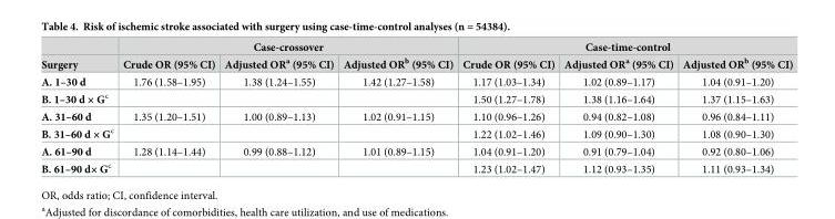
<table><thead><tr><td rowspan="2">Surgery</td><td colspan="3">Case-crossover</td><td colspan="3">Case-time-control</td></tr><tr><td>Crude OR (95% CI)</td><td>Adjusted OR<sup>a</sup> (95% CI)</td><td>Adjusted OR<sup>b</sup> (95% CI)</td><td>Crude OR (95% CI)</td><td>Adjusted OR<sup>a</sup> (95% CI)</td><td>Adjusted OR<sup>b</sup> (95% CI)</td></tr></thead><tbody><tr><td>A. 1–30 d</td><td>1.76 (1.58–1.95)</td><td>1.38 (1.24–1.55)</td><td>1.42 (1.27–1.58)</td><td>1.17 (1.03–1.34)</td><td>1.02 (0.89–1.17)</td><td>1.04 (0.91–1.20)</td></tr><tr><td>B. 1–30 d × G<sup>c</sup></td><td></td><td></td><td></td><td>1.50 (1.27–1.78)</td><td>1.38 (1.16–1.64)</td><td>1.37 (1.15–1.63)</td></tr><tr><td>A. 31–60 d</td><td>1.35 (1.20–1.51)</td><td>1.00 (0.89–1.13)</td><td>1.02 (0.91–1.15)</td><td>1.10 (0.96–1.26)</td><td>0.94 (0.82–1.08)</td><td>0.96 (0.84–1.11)</td></tr><tr><td>B. 31–60 d × G<sup>c</sup></td><td></td><td></td><td></td><td>1.22 (1.02–1.46)</td><td>1.09 (0.90–1.30)</td><td>1.08 (0.90–1.30)</td></tr><tr><td>A. 61–90 d</td><td>1.28 (1.14–1.44)</td><td>0.99 (0.88–1.12)</td><td>1.01 (0.89–1.15)</td><td>1.04 (0.91–1.20)</td><td>0.91 (0.79–1.04)</td><td>0.92 (0.80–1.06)</td></tr><tr><td>B. 61–90 d× G<sup>c</sup></td><td></td><td></td><td></td><td>1.23 (1.02–1.47)</td><td>1.12 (0.93–1.35)</td><td>1.11 (0.93–1.34)</td></tr></tbody></table>